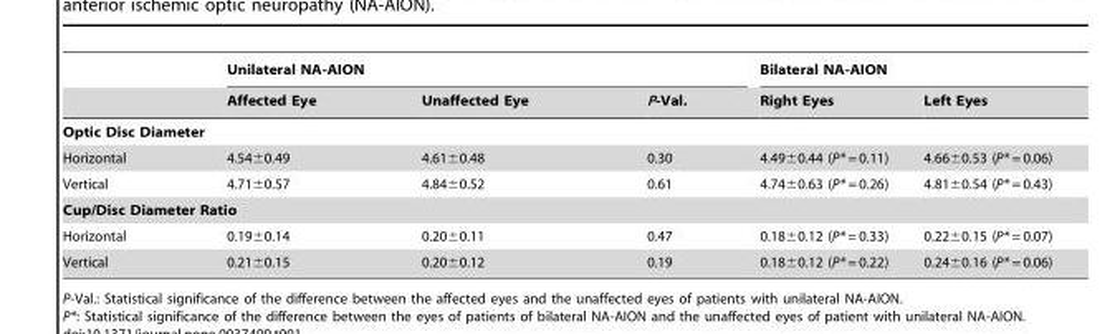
<table><thead><tr><td rowspan="2"></td><td colspan="3">Unilateral NA-AION</td><td colspan="2">Bilateral NA-AION</td></tr><tr><td>Affected Eye</td><td>Unaffected Eye</td><td>P-Val.</td><td>Right Eyes</td><td>Left Eyes</td></tr></thead><tbody><tr><td colspan="6">Optic Disc Diameter</td></tr><tr><td>Horizontal</td><td>4.54±0.49</td><td>4.61±0.48</td><td>0.30</td><td>4.49±0.44 (P* = 0.11)</td><td>4.66±0.53 (P* = 0.06)</td></tr><tr><td>Vertical</td><td>4.71±0.57</td><td>4.84±0.52</td><td>0.61</td><td>4.74±0.63 (P* = 0.26)</td><td>4.81±0.54 (P* = 0.43)</td></tr><tr><td colspan="6">Cup/Disc Diameter Ratio</td></tr><tr><td>Horizontal</td><td>0.19±0.14</td><td>0.20±0.11</td><td>0.47</td><td>0.18±0.12 (P* = 0.33)</td><td>0.22±0.15 (P* = 0.07)</td></tr><tr><td>Vertical</td><td>0.21±0.15</td><td>0.20±0.12</td><td>0.19</td><td>0.18±0.12 (P* = 0.22)</td><td>0.24±0.16 (P* = 0.06)</td></tr></tbody></table>